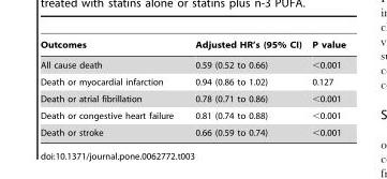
<table><thead><tr><td>Outcomes</td><td>Adjusted HR’s (95% CI)</td><td>P value</td></tr></thead><tbody><tr><td>All cause death</td><td>0.59 (0.52 to 0.66)</td><td>&lt;0.001</td></tr><tr><td>Death or myocardial infarction</td><td>0.94 (0.86 to 1.02)</td><td>0.127</td></tr><tr><td>Death or atrial fibrillation</td><td>0.78 (0.71 to 0.86)</td><td>&lt;0.001</td></tr><tr><td>Death or congestive heart failure</td><td>0.81 (0.74 to 0.88)</td><td>&lt;0.001</td></tr><tr><td>Death or stroke</td><td>0.66 (0.59 to 0.74)</td><td>&lt;0.001</td></tr></tbody></table>